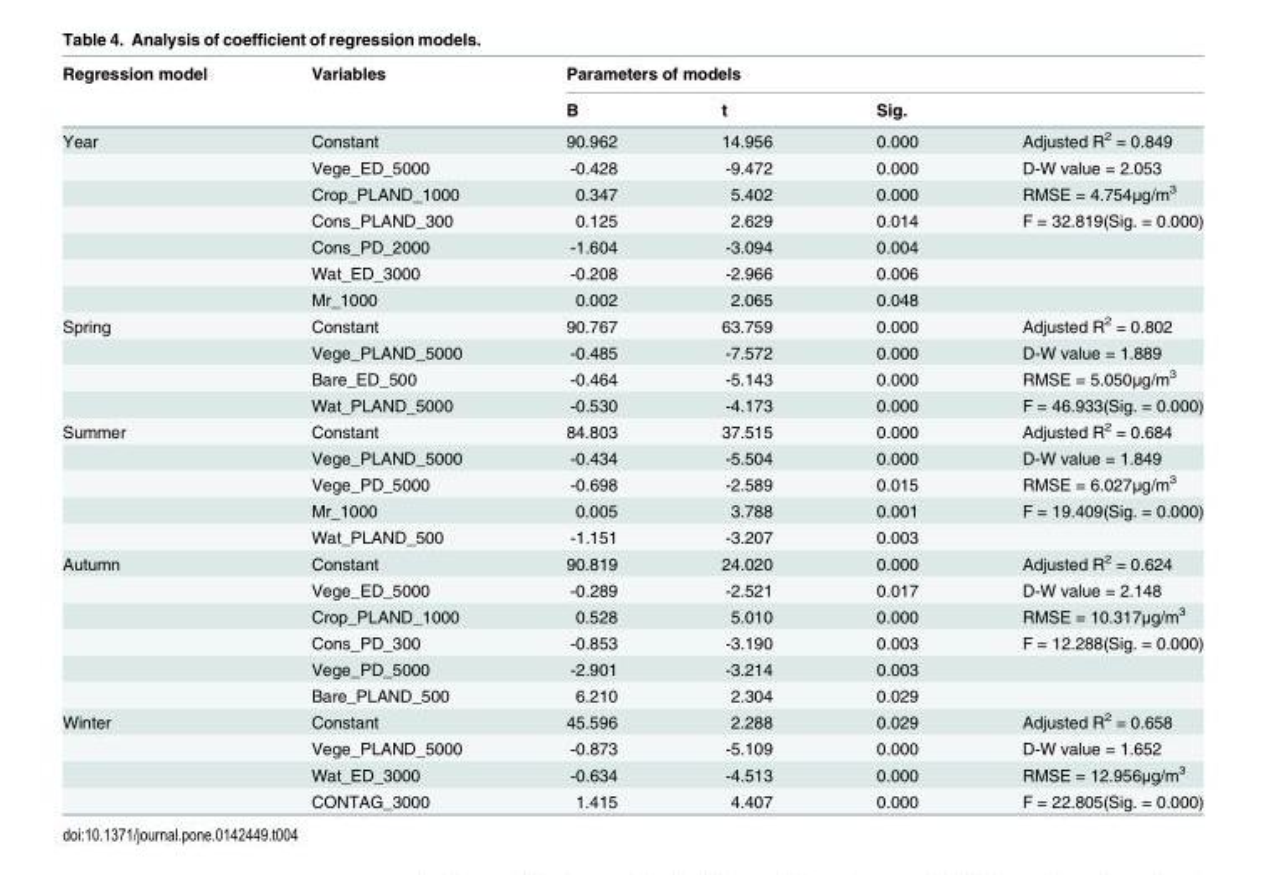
<table><thead><tr><td rowspan="2">Regression model</td><td rowspan="2">Variables</td><td colspan="4">Parameters of models</td></tr><tr><td>B</td><td>t</td><td>Sig.</td><td></td></tr></thead><tbody><tr><td rowspan="7">Year</td><td>Constant</td><td>90.962</td><td>14.956</td><td>0.000</td><td>Adjusted R<sup>2</sup> = 0.849</td></tr><tr><td>Vege_ED_5000</td><td>-0.428</td><td>-9.472</td><td>0.000</td><td>D-W value = 2.053</td></tr><tr><td>Crop_PLAND_1000</td><td>0.347</td><td>5.402</td><td>0.000</td><td>RMSE = 4.754μg/m<sup>3</sup></td></tr><tr><td>Cons_PLAND_300</td><td>0.125</td><td>2.629</td><td>0.014</td><td>F = 32.819(Sig. = 0.000)</td></tr><tr><td>Cons_PD_2000</td><td>-1.604</td><td>-3.094</td><td>0.004</td><td></td></tr><tr><td>Wat_ED_3000</td><td>-0.208</td><td>-2.966</td><td>0.006</td><td></td></tr><tr><td>Mr_1000</td><td>0.002</td><td>2.065</td><td>0.048</td><td></td></tr><tr><td rowspan="4">Spring</td><td>Constant</td><td>90.767</td><td>63.759</td><td>0.000</td><td>Adjusted R<sup>2</sup> = 0.802</td></tr><tr><td>Vege_PLAND_5000</td><td>-0.485</td><td>-7.572</td><td>0.000</td><td>D-W value = 1.889</td></tr><tr><td>Bare_ED_500</td><td>-0.464</td><td>-5.143</td><td>0.000</td><td>RMSE = 5.050μg/m<sup>3</sup></td></tr><tr><td>Wat_PLAND_5000</td><td>-0.530</td><td>-4.173</td><td>0.000</td><td>F = 46.933(Sig. = 0.000)</td></tr><tr><td rowspan="5">Summer</td><td>Constant</td><td>84.803</td><td>37.515</td><td>0.000</td><td>Adjusted R<sup>2</sup> = 0.684</td></tr><tr><td>Vege_PLAND_5000</td><td>-0.434</td><td>-5.504</td><td>0.000</td><td>D-W value = 1.849</td></tr><tr><td>Vege_PD_5000</td><td>-0.698</td><td>-2.589</td><td>0.015</td><td>RMSE = 6.027μg/m<sup>3</sup></td></tr><tr><td>Mr_1000</td><td>0.005</td><td>3.788</td><td>0.001</td><td>F = 19.409(Sig. = 0.000)</td></tr><tr><td>Wat_PLAND_500</td><td>-1.151</td><td>-3.207</td><td>0.003</td><td></td></tr><tr><td rowspan="6">Autumn</td><td>Constant</td><td>90.819</td><td>24.020</td><td>0.000</td><td>Adjusted R<sup>2</sup> = 0.624</td></tr><tr><td>Vege_ED_5000</td><td>-0.289</td><td>-2.521</td><td>0.017</td><td>D-W value = 2.148</td></tr><tr><td>Crop_PLAND_1000</td><td>0.528</td><td>5.010</td><td>0.000</td><td>RMSE = 10.317μg/m<sup>3</sup></td></tr><tr><td>Cons_PD_300</td><td>-0.853</td><td>-3.190</td><td>0.003</td><td>F = 12.288(Sig. = 0.000)</td></tr><tr><td>Vege_PD_5000</td><td>-2.901</td><td>-3.214</td><td>0.003</td><td></td></tr><tr><td>Bare_PLAND_500</td><td>6.210</td><td>2.304</td><td>0.029</td><td></td></tr><tr><td rowspan="4">Winter</td><td>Constant</td><td>45.596</td><td>2.288</td><td>0.029</td><td>Adjusted R<sup>2</sup> = 0.658</td></tr><tr><td>Vege_PLAND_5000</td><td>-0.873</td><td>-5.109</td><td>0.000</td><td>D-W value = 1.652</td></tr><tr><td>Wat_ED_3000</td><td>-0.634</td><td>-4.513</td><td>0.000</td><td>RMSE = 12.956μg/m<sup>3</sup></td></tr><tr><td>CONTAG_3000</td><td>1.415</td><td>4.407</td><td>0.000</td><td>F = 22.805(Sig. = 0.000)</td></tr></tbody></table>